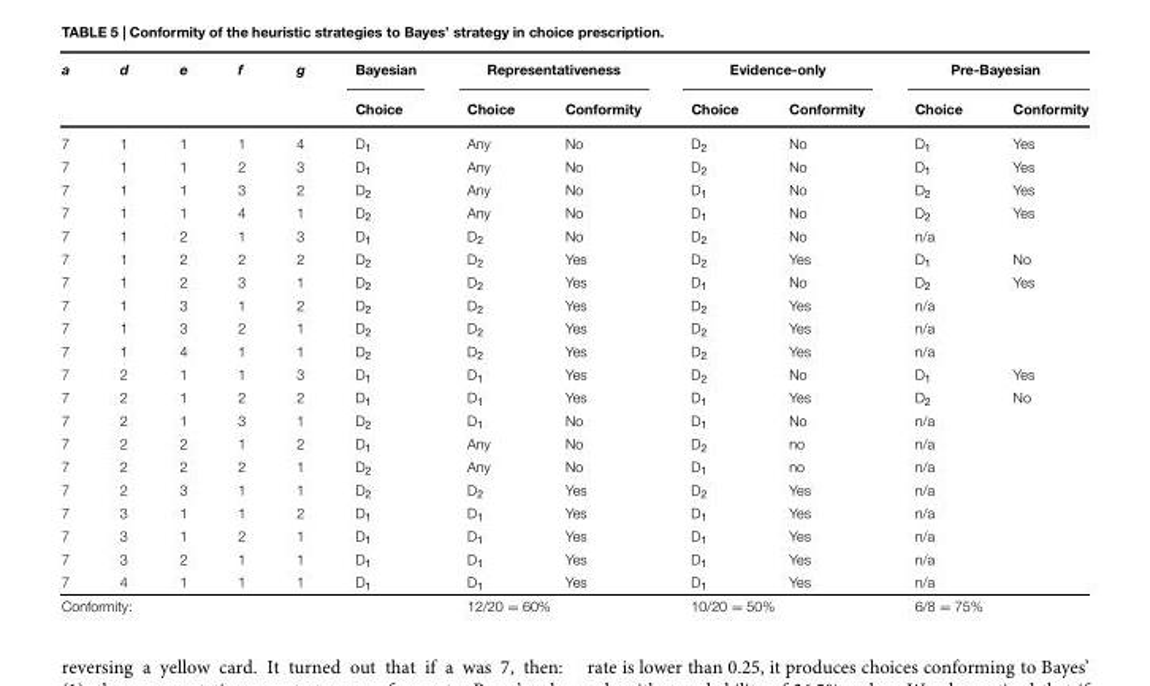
<table><thead><tr><td rowspan="2">a</td><td rowspan="2">d</td><td rowspan="2">e</td><td rowspan="2">f</td><td rowspan="2">g</td><td rowspan="2">Bayesian Choice</td><td colspan="2">Representativeness</td><td colspan="2">Evidence-only</td><td colspan="2">Pre-Bayesian</td></tr><tr><td>Choice</td><td>Conformity</td><td>Choice</td><td>Conformity</td><td>Choice</td><td>Conformity</td></tr></thead><tbody><tr><td>7</td><td>1</td><td>1</td><td>1</td><td>4</td><td>D<sub>1</sub></td><td>Any</td><td>No</td><td>D<sub>2</sub></td><td>No</td><td>D<sub>1</sub></td><td>Yes</td></tr><tr><td>7</td><td>1</td><td>1</td><td>2</td><td>3</td><td>D<sub>1</sub></td><td>Any</td><td>No</td><td>D<sub>2</sub></td><td>No</td><td>D<sub>1</sub></td><td>Yes</td></tr><tr><td>7</td><td>1</td><td>1</td><td>3</td><td>2</td><td>D<sub>2</sub></td><td>Any</td><td>No</td><td>D<sub>1</sub></td><td>No</td><td>D<sub>2</sub></td><td>Yes</td></tr><tr><td>7</td><td>1</td><td>1</td><td>4</td><td>1</td><td>D<sub>2</sub></td><td>Any</td><td>No</td><td>D<sub>1</sub></td><td>No</td><td>D<sub>2</sub></td><td>Yes</td></tr><tr><td>7</td><td>1</td><td>2</td><td>1</td><td>3</td><td>D<sub>1</sub></td><td>D<sub>2</sub></td><td>No</td><td>D<sub>2</sub></td><td>No</td><td colspan="2">n/a</td></tr><tr><td>7</td><td>1</td><td>2</td><td>2</td><td>2</td><td>D<sub>2</sub></td><td>D<sub>2</sub></td><td>Yes</td><td>D<sub>2</sub></td><td>Yes</td><td>D<sub>1</sub></td><td>No</td></tr><tr><td>7</td><td>1</td><td>2</td><td>3</td><td>1</td><td>D<sub>2</sub></td><td>D<sub>2</sub></td><td>Yes</td><td>D<sub>1</sub></td><td>No</td><td>D<sub>2</sub></td><td>Yes</td></tr><tr><td>7</td><td>1</td><td>3</td><td>1</td><td>2</td><td>D<sub>2</sub></td><td>D<sub>2</sub></td><td>Yes</td><td>D<sub>2</sub></td><td>Yes</td><td colspan="2">n/a</td></tr><tr><td>7</td><td>1</td><td>3</td><td>2</td><td>1</td><td>D<sub>2</sub></td><td>D<sub>2</sub></td><td>Yes</td><td>D<sub>2</sub></td><td>Yes</td><td colspan="2">n/a</td></tr><tr><td>7</td><td>1</td><td>4</td><td>1</td><td>1</td><td>D<sub>2</sub></td><td>D<sub>2</sub></td><td>Yes</td><td>D<sub>2</sub></td><td>Yes</td><td colspan="2">n/a</td></tr><tr><td>7</td><td>2</td><td>1</td><td>1</td><td>3</td><td>D<sub>1</sub></td><td>D<sub>1</sub></td><td>Yes</td><td>D<sub>2</sub></td><td>No</td><td>D<sub>1</sub></td><td>Yes</td></tr><tr><td>7</td><td>2</td><td>1</td><td>2</td><td>2</td><td>D<sub>1</sub></td><td>D<sub>1</sub></td><td>Yes</td><td>D<sub>1</sub></td><td>Yes</td><td>D<sub>2</sub></td><td>No</td></tr><tr><td>7</td><td>2</td><td>1</td><td>3</td><td>1</td><td>D<sub>2</sub></td><td>D<sub>1</sub></td><td>No</td><td>D<sub>1</sub></td><td>No</td><td colspan="2">n/a</td></tr><tr><td>7</td><td>2</td><td>2</td><td>1</td><td>2</td><td>D<sub>1</sub></td><td>Any</td><td>No</td><td>D<sub>2</sub></td><td>no</td><td colspan="2">n/a</td></tr><tr><td>7</td><td>2</td><td>2</td><td>2</td><td>1</td><td>D<sub>2</sub></td><td>Any</td><td>No</td><td>D<sub>1</sub></td><td>no</td><td colspan="2">n/a</td></tr><tr><td>7</td><td>2</td><td>3</td><td>1</td><td>1</td><td>D<sub>2</sub></td><td>D<sub>2</sub></td><td>Yes</td><td>D<sub>2</sub></td><td>Yes</td><td colspan="2">n/a</td></tr><tr><td>7</td><td>3</td><td>1</td><td>1</td><td>2</td><td>D<sub>1</sub></td><td>D<sub>1</sub></td><td>Yes</td><td>D<sub>1</sub></td><td>Yes</td><td colspan="2">n/a</td></tr><tr><td>7</td><td>3</td><td>1</td><td>2</td><td>1</td><td>D<sub>1</sub></td><td>D<sub>1</sub></td><td>Yes</td><td>D<sub>1</sub></td><td>Yes</td><td colspan="2">n/a</td></tr><tr><td>7</td><td>3</td><td>2</td><td>1</td><td>1</td><td>D<sub>1</sub></td><td>D<sub>1</sub></td><td>Yes</td><td>D<sub>1</sub></td><td>Yes</td><td colspan="2">n/a</td></tr><tr><td>7</td><td>4</td><td>1</td><td>1</td><td>1</td><td>D<sub>1</sub></td><td>D<sub>1</sub></td><td>Yes</td><td>D<sub>1</sub></td><td>Yes</td><td colspan="2">n/a</td></tr><tr><td colspan="6">Conformity:</td><td colspan="2">12/20 = 60%</td><td colspan="2">10/20 = 50%</td><td colspan="2">6/8 = 75%</td></tr></tbody></table>